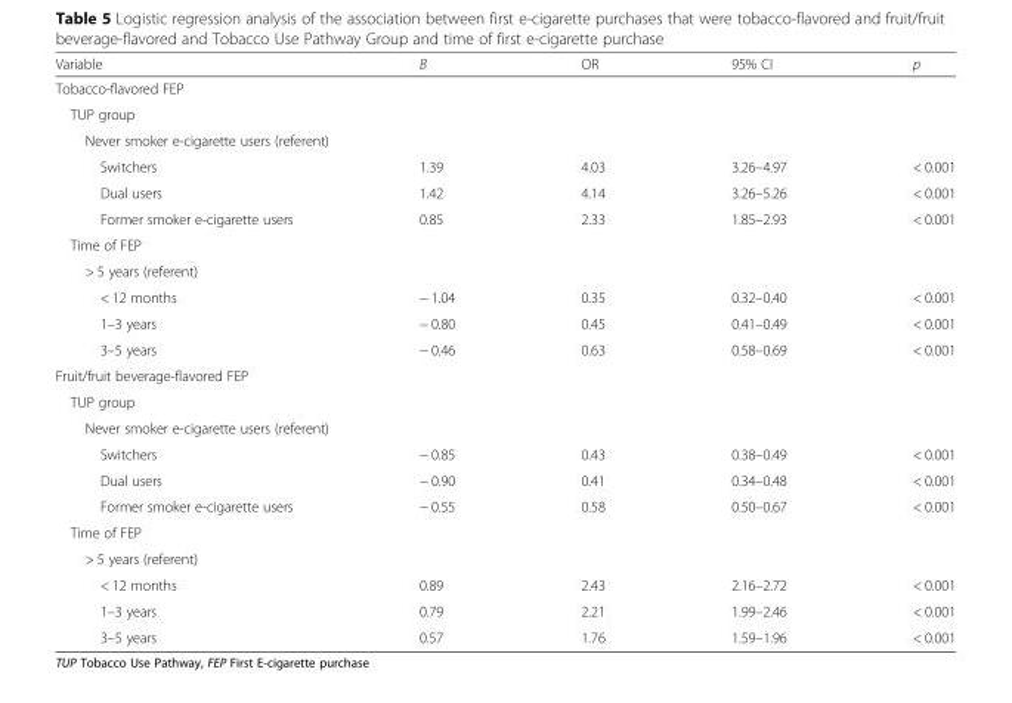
<table><thead><tr><td>Variable</td><td>B</td><td>OR</td><td>95% CI</td><td>p</td></tr></thead><tbody><tr><td colspan="5">Tobacco-flavored FEP</td></tr><tr><td colspan="5">TUP group</td></tr><tr><td colspan="5">Never smoker e-cigarette users (referent)</td></tr><tr><td>Switchers</td><td>1.39</td><td>4.03</td><td>3.26–4.97</td><td>&lt; 0.001</td></tr><tr><td>Dual users</td><td>1.42</td><td>4.14</td><td>3.26–5.26</td><td>&lt; 0.001</td></tr><tr><td>Former smoker e-cigarette users</td><td>0.85</td><td>2.33</td><td>1.85–2.93</td><td>&lt; 0.001</td></tr><tr><td colspan="5">Time of FEP</td></tr><tr><td colspan="5">&gt; 5 years (referent)</td></tr><tr><td>&lt; 12 months</td><td>− 1.04</td><td>0.35</td><td>0.32–0.40</td><td>&lt; 0.001</td></tr><tr><td>1–3 years</td><td>− 0.80</td><td>0.45</td><td>0.41–0.49</td><td>&lt; 0.001</td></tr><tr><td>3–5 years</td><td>− 0.46</td><td>0.63</td><td>0.58–0.69</td><td>&lt; 0.001</td></tr><tr><td colspan="5">Fruit/fruit beverage-flavored FEP</td></tr><tr><td colspan="5">TUP group</td></tr><tr><td colspan="5">Never smoker e-cigarette users (referent)</td></tr><tr><td>Switchers</td><td>− 0.85</td><td>0.43</td><td>0.38–0.49</td><td>&lt; 0.001</td></tr><tr><td>Dual users</td><td>− 0.90</td><td>0.41</td><td>0.34–0.48</td><td>&lt; 0.001</td></tr><tr><td>Former smoker e-cigarette users</td><td>− 0.55</td><td>0.58</td><td>0.50–0.67</td><td>&lt; 0.001</td></tr><tr><td colspan="5">Time of FEP</td></tr><tr><td colspan="5">&gt; 5 years (referent)</td></tr><tr><td>&lt; 12 months</td><td>0.89</td><td>2.43</td><td>2.16–2.72</td><td>&lt; 0.001</td></tr><tr><td>1–3 years</td><td>0.79</td><td>2.21</td><td>1.99–2.46</td><td>&lt; 0.001</td></tr><tr><td>3–5 years</td><td>0.57</td><td>1.76</td><td>1.59–1.96</td><td>&lt; 0.001</td></tr></tbody></table>